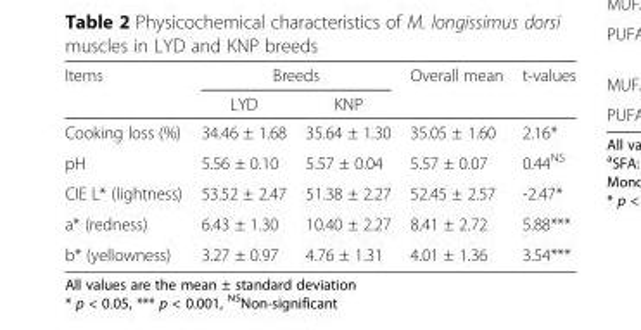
<table><thead><tr><td rowspan="2">Items</td><td colspan="2">Breeds</td><td rowspan="2">Overall mean</td><td rowspan="2">t-values</td></tr><tr><td>LYD</td><td>KNP</td></tr></thead><tbody><tr><td>Cooking loss (%)</td><td>34.46 ± 1.68</td><td>35.64 ± 1.30</td><td>35.05 ± 1.60</td><td>2.16*</td></tr><tr><td>pH</td><td>5.56 ± 0.10</td><td>5.57 ± 0.04</td><td>5.57 ± 0.07</td><td>0.44<sup>NS</sup></td></tr><tr><td>CIE L* (lightness)</td><td>53.52 ± 2.47</td><td>51.38 ± 2.27</td><td>52.45 ± 2.57</td><td>-2.47*</td></tr><tr><td>a* (redness)</td><td>6.43 ± 1.30</td><td>10.40 ± 2.27</td><td>8.41 ± 2.72</td><td>5.88***</td></tr><tr><td>b* (yellowness)</td><td>3.27 ± 0.97</td><td>4.76 ± 1.31</td><td>4.01 ± 1.36</td><td>3.54***</td></tr></tbody></table>